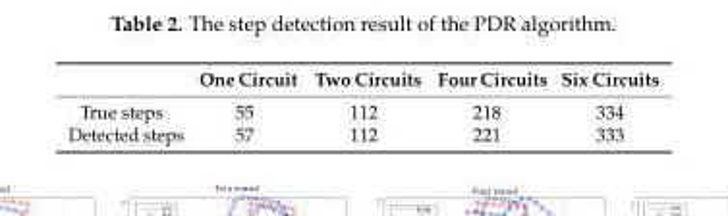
<table><thead><tr><td></td><td>One Circuit</td><td>Two Circuits</td><td>Four Circuits</td><td>Six Circuits</td></tr></thead><tbody><tr><td>True steps</td><td>55</td><td>112</td><td>218</td><td>334</td></tr><tr><td>Detected steps</td><td>57</td><td>112</td><td>221</td><td>333</td></tr></tbody></table>